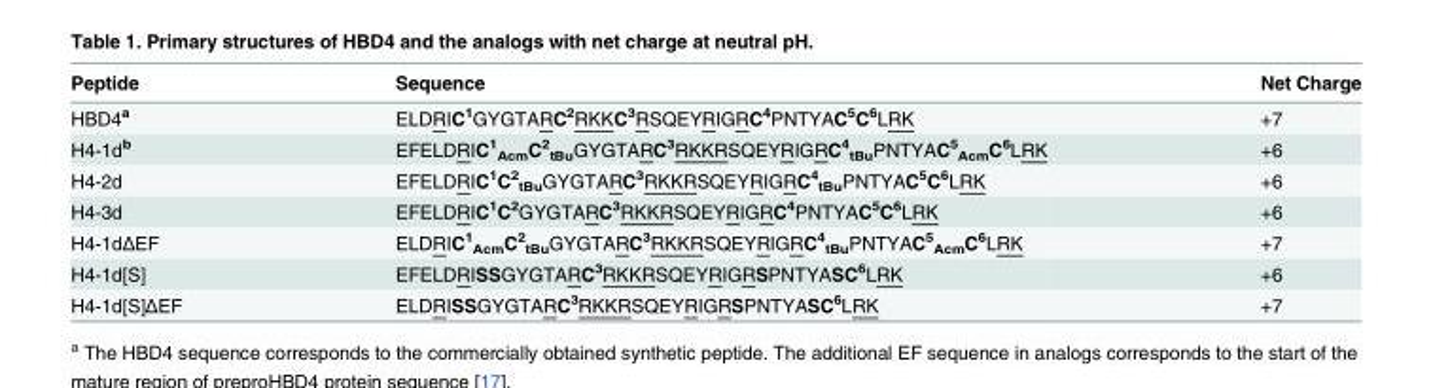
<table><thead><tr><td>Peptide</td><td>Sequence</td><td>Net Charge</td></tr></thead><tbody><tr><td>HBD4<sup>a</sup></td><td>ELDRIC<sup>1</sup>GYGTARC<sup>2</sup>RKKC<sup>3</sup>RSQEYRIGRC<sup>4</sup>PNTYAC<sup>5</sup>C<sup>6</sup>LRK</td><td>+7</td></tr><tr><td>H4-1d<sup>b</sup></td><td>EFELDRIC1 AcmC2 tBuGYGTARC3RKKRSQEYRIGRC4 tBuPNTYAC5 AcmC6LRK</td><td>+6</td></tr><tr><td>H4-2d</td><td>EFELDRIC1C2 tBuGYGTARC3RKKRSQEYRIGRC4 tBuPNTYAC5C6LRK</td><td>+6</td></tr><tr><td>H4-3d</td><td>EFELDRIC<sup>1</sup>C<sup>2</sup>GYGTARC<sup>3</sup>RKKRSQEYRIGRC<sup>4</sup>PNTYAC<sup>5</sup>C<sup>6</sup>LRK</td><td>+6</td></tr><tr><td>H4-1dΔEF</td><td>ELDRIC1 AcmC2 tBuGYGTARC3RKKRSQEYRIGRC4 tBuPNTYAC5 AcmC6LRK</td><td>+7</td></tr><tr><td>H4-1d[S]</td><td>EFELDRISSGYGTARC<sup>3</sup>RKKRSQEYRIGRSPNTYASC<sup>6</sup>LRK</td><td>+6</td></tr><tr><td>H4-1d[S]ΔEF</td><td>ELDRISSGYGTARC<sup>3</sup>RKKRSQEYRIGRSPNTYASC<sup>6</sup>LRK</td><td>+7</td></tr></tbody></table>